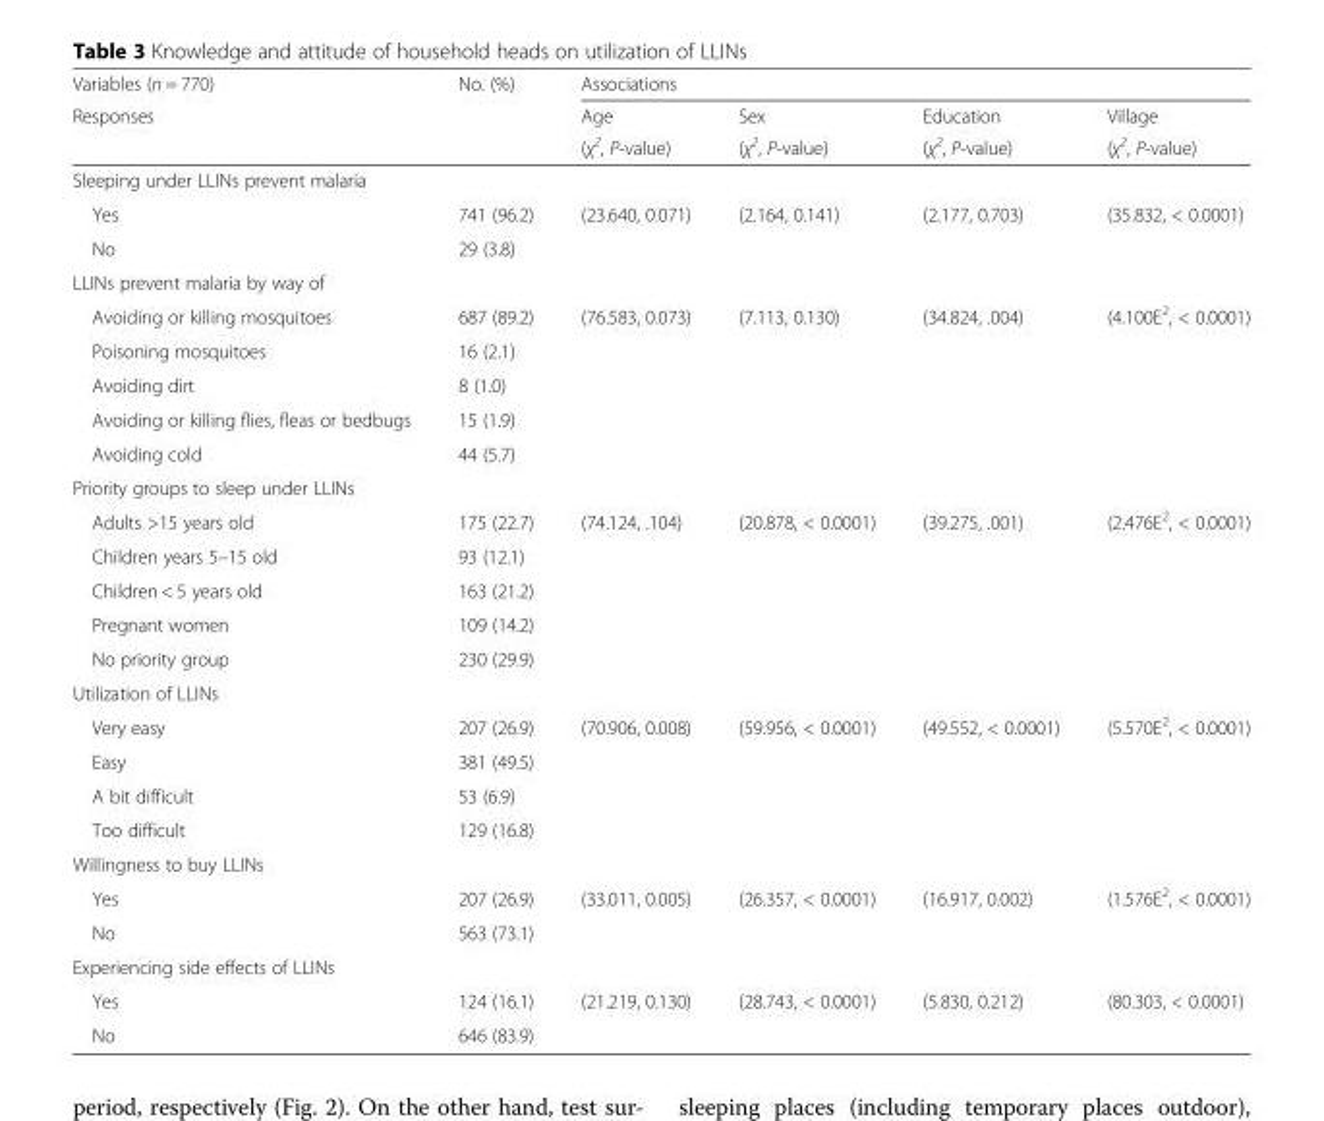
<table><thead><tr><td rowspan="3">Variables (n = 770) Responses</td><td rowspan="3">No. (%)</td><td colspan="4">Associations</td></tr><tr><td rowspan="2">Age (χ<sup>2</sup>, P-value)</td><td rowspan="2">Sex (χ<sup>2</sup>, P-value)</td><td rowspan="2">Education (χ<sup>2</sup>, P-value)</td><td rowspan="2">Village (χ<sup>2</sup>, P-value)</td></tr><tr></tr></thead><tbody><tr><td colspan="6">Sleeping under LLINs prevent malaria</td></tr><tr><td>Yes</td><td>741 (96.2)</td><td rowspan="2">(23.640, 0.071)</td><td rowspan="2">(2.164, 0.141)</td><td rowspan="2">(2.177, 0.703)</td><td rowspan="2">(35.832, &lt; 0.0001)</td></tr><tr><td>No</td><td>29 (3.8)</td></tr><tr><td colspan="6">LLINs prevent malaria by way of</td></tr><tr><td>Avoiding or killing mosquitoes</td><td>687 (89.2)</td><td rowspan="5">(76.583, 0.073)</td><td rowspan="5">(7.113, 0.130)</td><td rowspan="5">(34.824, .004)</td><td rowspan="5">(4.100E<sup>2</sup>, &lt; 0.0001)</td></tr><tr><td>Poisoning mosquitoes</td><td>16 (2.1)</td></tr><tr><td>Avoiding dirt</td><td>8 (1.0)</td></tr><tr><td>Avoiding or killing flies, fleas or bedbugs</td><td>15 (1.9)</td></tr><tr><td>Avoiding cold</td><td>44 (5.7)</td></tr><tr><td colspan="6">Priority groups to sleep under LLINs</td></tr><tr><td>Adults &gt;15 years old</td><td>175 (22.7)</td><td rowspan="5">(74.124, .104)</td><td rowspan="5">(20.878, &lt; 0.0001)</td><td rowspan="5">(39.275, .001)</td><td rowspan="5">(2.476E<sup>2</sup>, &lt; 0.0001)</td></tr><tr><td>Children years 5–15 old</td><td>93 (12.1)</td></tr><tr><td>Children &lt; 5 years old</td><td>163 (21.2)</td></tr><tr><td>Pregnant women</td><td>109 (14.2)</td></tr><tr><td>No priority group</td><td>230 (29.9)</td></tr><tr><td colspan="6">Utilization of LLINs</td></tr><tr><td>Very easy</td><td>207 (26.9)</td><td rowspan="4">(70.906, 0.008)</td><td rowspan="4">(59.956, &lt; 0.0001)</td><td rowspan="4">(49.552, &lt; 0.0001)</td><td rowspan="4">(5.570E<sup>2</sup>, &lt; 0.0001)</td></tr><tr><td>Easy</td><td>381 (49.5)</td></tr><tr><td>A bit difficult</td><td>53 (6.9)</td></tr><tr><td>Too difficult</td><td>129 (16.8)</td></tr><tr><td colspan="6">Willingness to buy LLINs</td></tr><tr><td>Yes</td><td>207 (26.9)</td><td rowspan="2">(33.011, 0.005)</td><td rowspan="2">(26.357, &lt; 0.0001)</td><td rowspan="2">(16.917, 0.002)</td><td rowspan="2">(1.576E<sup>2</sup>, &lt; 0.0001)</td></tr><tr><td>No</td><td>563 (73.1)</td></tr><tr><td colspan="6">Experiencing side effects of LLINs</td></tr><tr><td>Yes</td><td>124 (16.1)</td><td rowspan="2">(21.219, 0.130)</td><td rowspan="2">(28.743, &lt; 0.0001)</td><td rowspan="2">(5.830, 0.212)</td><td rowspan="2">(80.303, &lt; 0.0001)</td></tr><tr><td>No</td><td>646 (83.9)</td></tr></tbody></table>